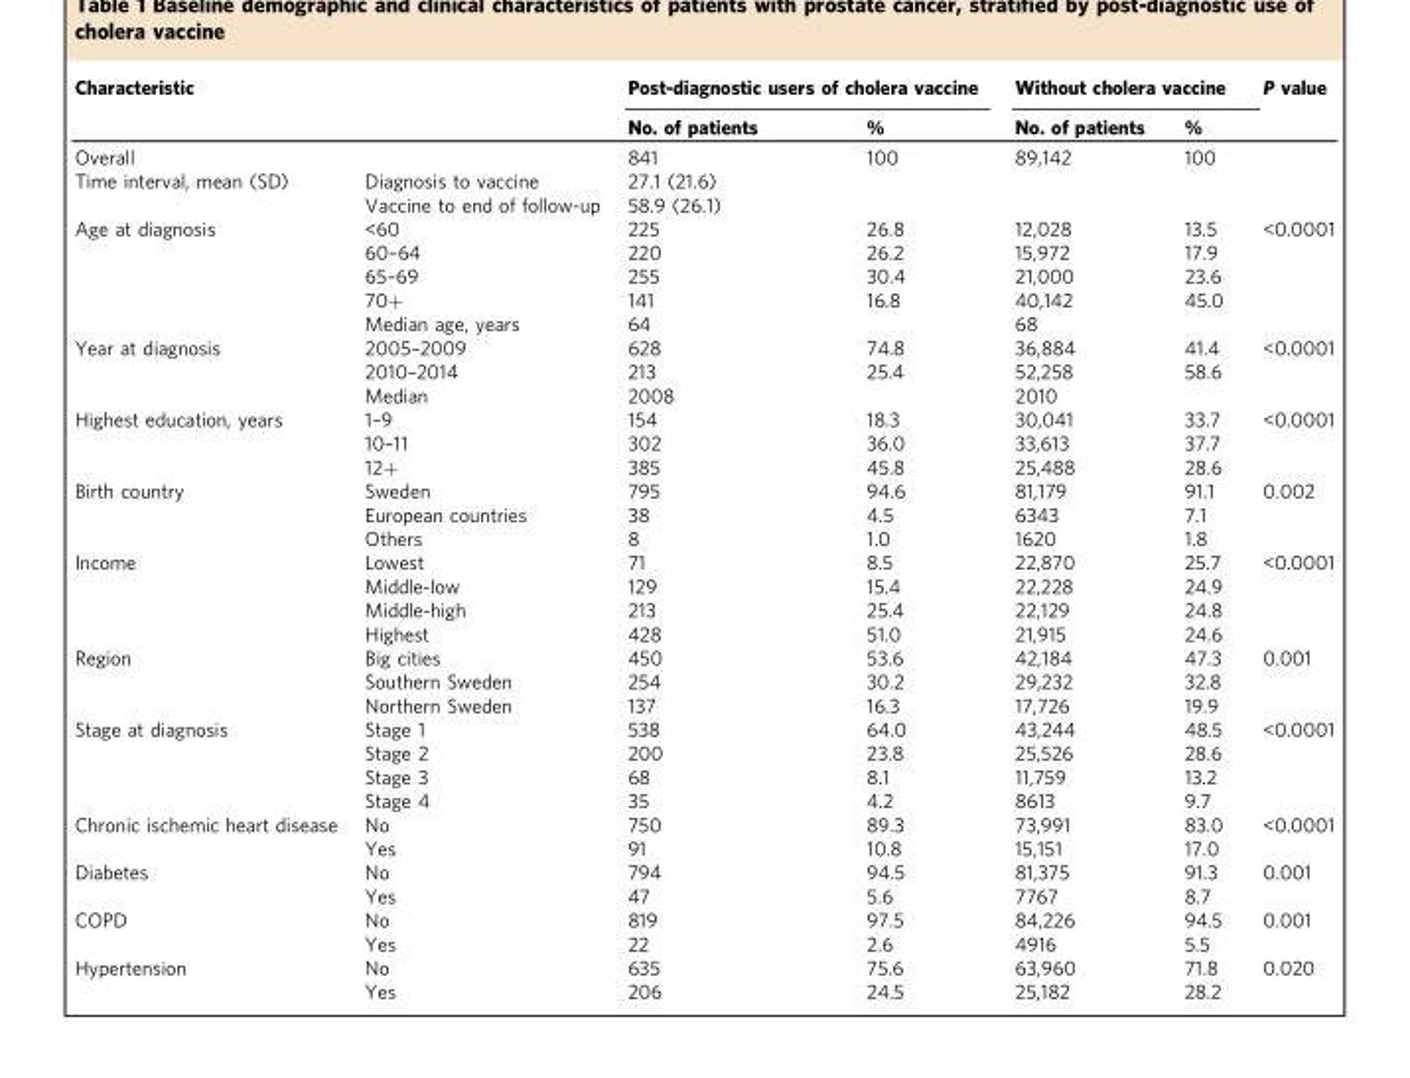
<table><thead><tr><td rowspan="2">Characteristic</td><td rowspan="2"></td><td colspan="2">Post-diagnostic users of cholera vaccine</td><td colspan="2">Without cholera vaccine</td><td rowspan="2">P value</td></tr><tr><td>No. of patients</td><td>%</td><td>No. of patients</td><td>%</td></tr></thead><tbody><tr><td>Overall</td><td></td><td>841</td><td>100</td><td>89,142</td><td>100</td><td></td></tr><tr><td rowspan="2">Time interval, mean (SD)</td><td>Diagnosis to vaccine</td><td>27.1 (21.6)</td><td></td><td></td><td></td><td></td></tr><tr><td>Vaccine to end of follow-up</td><td>58.9 (26.1)</td><td></td><td></td><td></td><td></td></tr><tr><td rowspan="5">Age at diagnosis</td><td>&lt;60</td><td>225</td><td>26.8</td><td>12,028</td><td>13.5</td><td rowspan="4">&lt;0.0001</td></tr><tr><td>60–64</td><td>220</td><td>26.2</td><td>15,972</td><td>17.9</td></tr><tr><td>65–69</td><td>255</td><td>30.4</td><td>21,000</td><td>23.6</td></tr><tr><td>70+</td><td>141</td><td>16.8</td><td>40,142</td><td>45.0</td></tr><tr><td>Median age, years</td><td>64</td><td></td><td>68</td><td></td><td></td></tr><tr><td rowspan="3">Year at diagnosis</td><td>2005–2009</td><td>628</td><td>74.8</td><td>36,884</td><td>41.4</td><td rowspan="3">&lt;0.0001</td></tr><tr><td>2010–2014</td><td>213</td><td>25.4</td><td>52,258</td><td>58.6</td></tr><tr><td>Median</td><td>2008</td><td></td><td>2010</td><td></td></tr><tr><td rowspan="3">Highest education, years</td><td>1–9</td><td>154</td><td>18.3</td><td>30,041</td><td>33.7</td><td rowspan="3">&lt;0.0001</td></tr><tr><td>10–11</td><td>302</td><td>36.0</td><td>33,613</td><td>37.7</td></tr><tr><td>12+</td><td>385</td><td>45.8</td><td>25,488</td><td>28.6</td></tr><tr><td rowspan="3">Birth country</td><td>Sweden</td><td>795</td><td>94.6</td><td>81,179</td><td>91.1</td><td rowspan="3">0.002</td></tr><tr><td>European countries</td><td>38</td><td>4.5</td><td>6343</td><td>7.1</td></tr><tr><td>Others</td><td>8</td><td>1.0</td><td>1620</td><td>1.8</td></tr><tr><td rowspan="4">Income</td><td>Lowest</td><td>71</td><td>8.5</td><td>22,870</td><td>25.7</td><td rowspan="4">&lt;0.0001</td></tr><tr><td>Middle-low</td><td>129</td><td>15.4</td><td>22,228</td><td>24.9</td></tr><tr><td>Middle-high</td><td>213</td><td>25.4</td><td>22,129</td><td>24.8</td></tr><tr><td>Highest</td><td>428</td><td>51.0</td><td>21,915</td><td>24.6</td></tr><tr><td rowspan="3">Region</td><td>Big cities</td><td>450</td><td>53.6</td><td>42,184</td><td>47.3</td><td rowspan="3">0.001</td></tr><tr><td>Southern Sweden</td><td>254</td><td>30.2</td><td>29,232</td><td>32.8</td></tr><tr><td>Northern Sweden</td><td>137</td><td>16.3</td><td>17,726</td><td>19.9</td></tr><tr><td rowspan="4">Stage at diagnosis</td><td>Stage 1</td><td>538</td><td>64.0</td><td>43,244</td><td>48.5</td><td rowspan="4">&lt;0.0001</td></tr><tr><td>Stage 2</td><td>200</td><td>23.8</td><td>25,526</td><td>28.6</td></tr><tr><td>Stage 3</td><td>68</td><td>8.1</td><td>11,759</td><td>13.2</td></tr><tr><td>Stage 4</td><td>35</td><td>4.2</td><td>8613</td><td>9.7</td></tr><tr><td rowspan="2">Chronic ischemic heart disease</td><td>No</td><td>750</td><td>89.3</td><td>73,991</td><td>83.0</td><td rowspan="2">&lt;0.0001</td></tr><tr><td>Yes</td><td>91</td><td>10.8</td><td>15,151</td><td>17.0</td></tr><tr><td rowspan="2">Diabetes</td><td>No</td><td>794</td><td>94.5</td><td>81,375</td><td>91.3</td><td rowspan="2">0.001</td></tr><tr><td>Yes</td><td>47</td><td>5.6</td><td>7767</td><td>8.7</td></tr><tr><td rowspan="2">COPD</td><td>No</td><td>819</td><td>97.5</td><td>84,226</td><td>94.5</td><td rowspan="2">0.001</td></tr><tr><td>Yes</td><td>22</td><td>2.6</td><td>4916</td><td>5.5</td></tr><tr><td rowspan="2">Hypertension</td><td>No</td><td>635</td><td>75.6</td><td>63,960</td><td>71.8</td><td rowspan="2">0.020</td></tr><tr><td>Yes</td><td>206</td><td>24.5</td><td>25,182</td><td>28.2</td></tr></tbody></table>